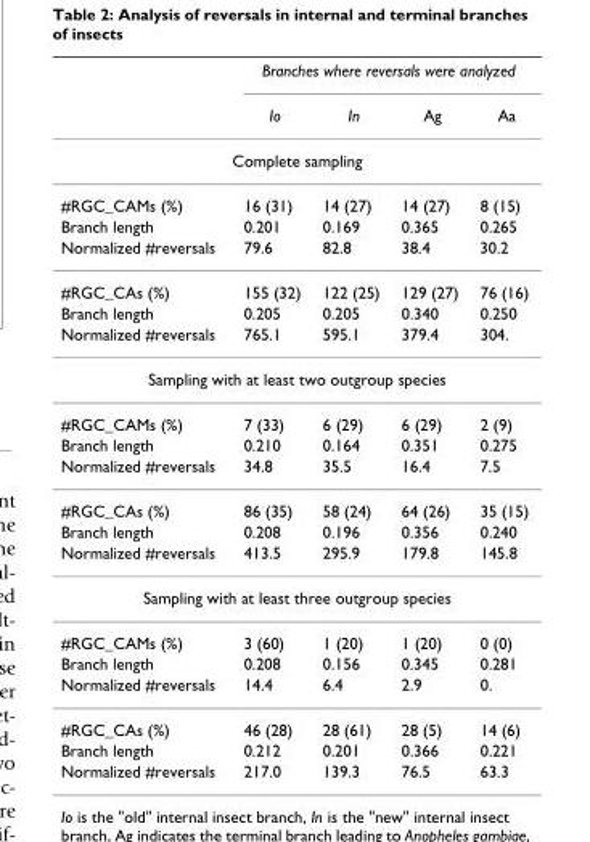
<table><thead><tr><td rowspan="2"></td><td colspan="4">Branches where reversals were analyzed</td></tr><tr><td>Io</td><td>In</td><td>Ag</td><td>Aa</td></tr></thead><tbody><tr><td colspan="5">Complete sampling</td></tr><tr><td>#RGC_CAMs (%)</td><td>16 (31)</td><td>14 (27)</td><td>14 (27)</td><td>8 (15)</td></tr><tr><td>Branch length</td><td>0.201</td><td>0.169</td><td>0.365</td><td>0.265</td></tr><tr><td>Normalized #reversals</td><td>79.6</td><td>82.8</td><td>38.4</td><td>30.2</td></tr><tr><td>#RGC_CAs (%)</td><td>155 (32)</td><td>122 (25)</td><td>129 (27)</td><td>76 (16)</td></tr><tr><td>Branch length</td><td>0.205</td><td>0.205</td><td>0.340</td><td>0.250</td></tr><tr><td>Normalized #reversals</td><td>765.1</td><td>595.1</td><td>379.4</td><td>304.</td></tr><tr><td colspan="5">Sampling with at least two outgroup species</td></tr><tr><td>#RGC_CAMs (%)</td><td>7 (33)</td><td>6 (29)</td><td>6 (29)</td><td>2 (9)</td></tr><tr><td>Branch length</td><td>0.210</td><td>0.164</td><td>0.351</td><td>0.275</td></tr><tr><td>Normalized #reversals</td><td>34.8</td><td>35.5</td><td>16.4</td><td>7.5</td></tr><tr><td>#RGC_CAs (%)</td><td>86 (35)</td><td>58 (24)</td><td>64 (26)</td><td>35 (15)</td></tr><tr><td>Branch length</td><td>0.208</td><td>0.196</td><td>0.356</td><td>0.240</td></tr><tr><td>Normalized #reversals</td><td>413.5</td><td>295.9</td><td>179.8</td><td>145.8</td></tr><tr><td colspan="5">Sampling with at least three outgroup species</td></tr><tr><td>#RGC_CAMs (%)</td><td>3 (60)</td><td>1 (20)</td><td>1 (20)</td><td>0 (0)</td></tr><tr><td>Branch length</td><td>0.208</td><td>0.156</td><td>0.345</td><td>0.281</td></tr><tr><td>Normalized #reversals</td><td>14.4</td><td>6.4</td><td>2.9</td><td>0.</td></tr><tr><td>#RGC_CAs (%)</td><td>46 (28)</td><td>28 (61)</td><td>28 (5)</td><td>14 (6)</td></tr><tr><td>Branch length</td><td>0.212</td><td>0.201</td><td>0.366</td><td>0.221</td></tr><tr><td>Normalized #reversals</td><td>217.0</td><td>139.3</td><td>76.5</td><td>63.3</td></tr></tbody></table>